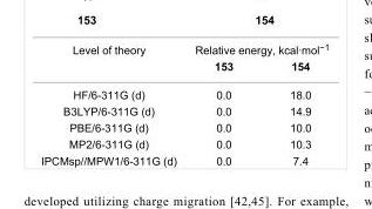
<table><tbody><tr><td rowspan="2">Level of theory</td><td colspan="2">Relative energy, kcal·mol<sup>−1</sup></td></tr><tr><td>153</td><td>154</td></tr><tr><td>HF/6-311G (d)</td><td>0.0</td><td>18.0</td></tr><tr><td>B3LYP/6-311G (d)</td><td>0.0</td><td>14.9</td></tr><tr><td>PBE/6-311G (d)</td><td>0.0</td><td>10.0</td></tr><tr><td>MP2/6-311G (d)</td><td>0.0</td><td>10.3</td></tr><tr><td>IPCMsp//MPW1/6-311G (d)</td><td>0.0</td><td>7.4</td></tr></tbody></table>